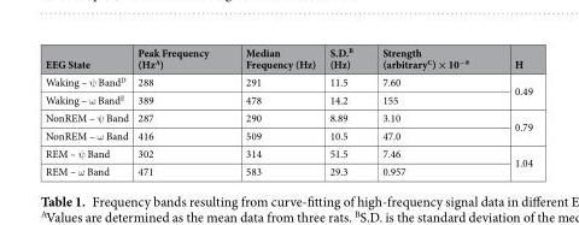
<table><thead><tr><td>EEG State</td><td>Peak Frequency (Hz<sup>A</sup>)</td><td>Median Frequency (Hz)</td><td>S.D.<sup>B</sup> (Hz)</td><td>Strength (arbitrary<sup>C</sup>) × 10<sup>−8</sup></td><td>H</td></tr></thead><tbody><tr><td>Waking – ψ Band<sup>D</sup></td><td>288</td><td>291</td><td>11.5</td><td>7.60</td><td rowspan="2">0.49</td></tr><tr><td>Waking – ω Band<sup>E</sup></td><td>389</td><td>478</td><td>14.2</td><td>155</td></tr><tr><td>NonREM – ψ Band</td><td>287</td><td>290</td><td>8.89</td><td>3.10</td><td rowspan="2">0.79</td></tr><tr><td>NonREM – ω Band</td><td>416</td><td>509</td><td>10.5</td><td>47.0</td></tr><tr><td>REM – ψ Band</td><td>302</td><td>314</td><td>51.5</td><td>7.46</td><td rowspan="2">1.04</td></tr><tr><td>REM – ω Band</td><td>471</td><td>583</td><td>29.3</td><td>0.957</td></tr></tbody></table>